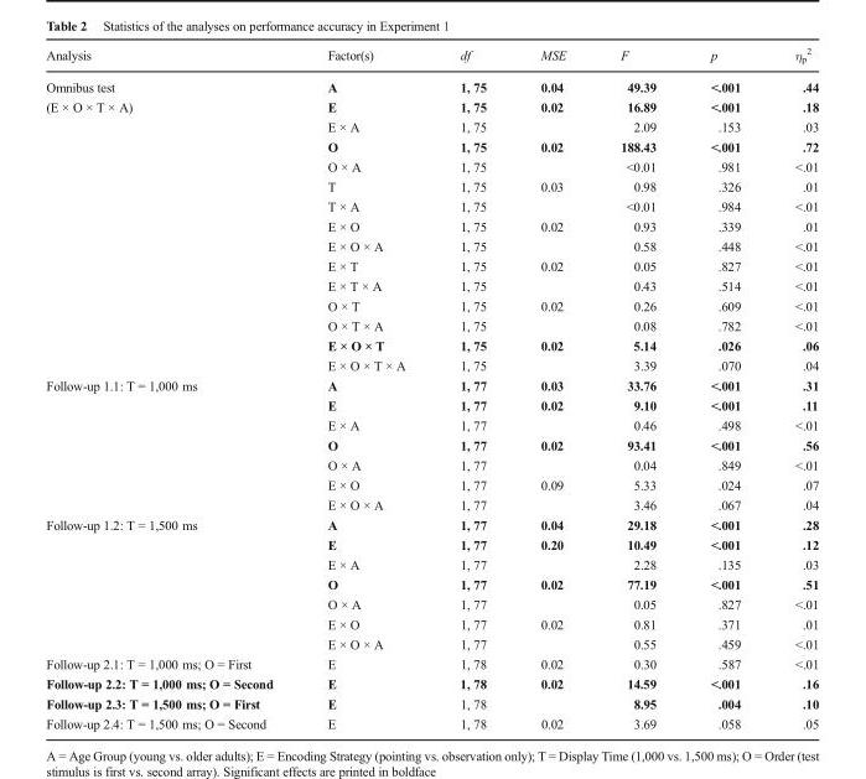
<table><thead><tr><td>Analysis</td><td>Factor(s)</td><td>df</td><td>MSE</td><td>F</td><td>p</td><td>η<sub>p</sub> <sup>2</sup></td></tr></thead><tbody><tr><td>Omnibus test</td><td>A</td><td>1, 75</td><td>0.04</td><td>49.39</td><td>&lt;.001</td><td>.44</td></tr><tr><td rowspan="14">(E × O × T × A)</td><td>E</td><td>1, 75</td><td>0.02</td><td>16.89</td><td>&lt;.001</td><td>.18</td></tr><tr><td>E × A</td><td>1, 75</td><td></td><td>2.09</td><td>.153</td><td>.03</td></tr><tr><td>O</td><td>1, 75</td><td>0.02</td><td>188.43</td><td>&lt;.001</td><td>.72</td></tr><tr><td>O × A</td><td>1, 75</td><td></td><td>&lt;0.01</td><td>.981</td><td>&lt;.01</td></tr><tr><td>T</td><td>1, 75</td><td>0.03</td><td>0.98</td><td>.326</td><td>.01</td></tr><tr><td>T × A</td><td>1, 75</td><td></td><td>&lt;0.01</td><td>.984</td><td>&lt;.01</td></tr><tr><td>E × O</td><td>1, 75</td><td>0.02</td><td>0.93</td><td>.339</td><td>.01</td></tr><tr><td>E × O × A</td><td>1, 75</td><td></td><td>0.58</td><td>.448</td><td>&lt;.01</td></tr><tr><td>E × T</td><td>1, 75</td><td>0.02</td><td>0.05</td><td>.827</td><td>&lt;.01</td></tr><tr><td>E × T × A</td><td>1, 75</td><td></td><td>0.43</td><td>.514</td><td>&lt;.01</td></tr><tr><td>O × T</td><td>1, 75</td><td>0.02</td><td>0.26</td><td>.609</td><td>&lt;.01</td></tr><tr><td>O × T × A</td><td>1, 75</td><td></td><td>0.08</td><td>.782</td><td>&lt;.01</td></tr><tr><td>E × O × T</td><td>1, 75</td><td>0.02</td><td>5.14</td><td>.026</td><td>.06</td></tr><tr><td>E × O × T × A</td><td>1, 75</td><td></td><td>3.39</td><td>.070</td><td>.04</td></tr><tr><td rowspan="7">Follow-up 1.1: T = 1,000 ms</td><td>A</td><td>1, 77</td><td>0.03</td><td>33.76</td><td>&lt;.001</td><td>.31</td></tr><tr><td>E</td><td>1, 77</td><td>0.02</td><td>9.10</td><td>&lt;.001</td><td>.11</td></tr><tr><td>E × A</td><td>1, 77</td><td></td><td>0.46</td><td>.498</td><td>&lt;.01</td></tr><tr><td>O</td><td>1, 77</td><td>0.02</td><td>93.41</td><td>&lt;.001</td><td>.56</td></tr><tr><td>O × A</td><td>1, 77</td><td></td><td>0.04</td><td>.849</td><td>&lt;.01</td></tr><tr><td>E × O</td><td>1, 77</td><td>0.09</td><td>5.33</td><td>.024</td><td>.07</td></tr><tr><td>E × O × A</td><td>1, 77</td><td></td><td>3.46</td><td>.067</td><td>.04</td></tr><tr><td rowspan="7">Follow-up 1.2: T = 1,500 ms</td><td>A</td><td>1, 77</td><td>0.04</td><td>29.18</td><td>&lt;.001</td><td>.28</td></tr><tr><td>E</td><td>1, 77</td><td>0.20</td><td>10.49</td><td>&lt;.001</td><td>.12</td></tr><tr><td>E × A</td><td>1, 77</td><td></td><td>2.28</td><td>.135</td><td>.03</td></tr><tr><td>O</td><td>1, 77</td><td>0.02</td><td>77.19</td><td>&lt;.001</td><td>.51</td></tr><tr><td>O × A</td><td>1, 77</td><td></td><td>0.05</td><td>.827</td><td>&lt;.01</td></tr><tr><td>E × O</td><td>1, 77</td><td>0.02</td><td>0.81</td><td>.371</td><td>.01</td></tr><tr><td>E × O × A</td><td>1, 77</td><td></td><td>0.55</td><td>.459</td><td>&lt;.01</td></tr><tr><td>Follow-up 2.1: T = 1,000 ms; O = First</td><td>E</td><td>1, 78</td><td>0.02</td><td>0.30</td><td>.587</td><td>&lt;.01</td></tr><tr><td>Follow-up 2.2: T = 1,000 ms; O = Second</td><td>E</td><td>1, 78</td><td>0.02</td><td>14.59</td><td>&lt;.001</td><td>.16</td></tr><tr><td>Follow-up 2.3: T = 1,500 ms; O = First</td><td>E</td><td>1, 78</td><td></td><td>8.95</td><td>.004</td><td>.10</td></tr><tr><td>Follow-up 2.4: T = 1,500 ms; O = Second</td><td>E</td><td>1, 78</td><td>0.02</td><td>3.69</td><td>.058</td><td>.05</td></tr></tbody></table>